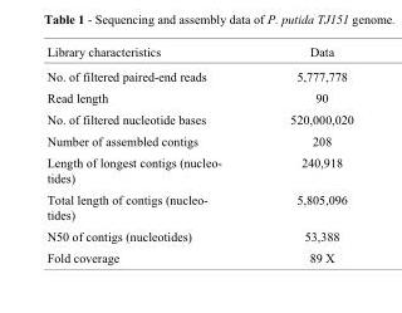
<table><thead><tr><td>Library characteristics</td><td>Data</td></tr></thead><tbody><tr><td>No. of filtered paired-end reads</td><td>5,777,778</td></tr><tr><td>Read length</td><td>90</td></tr><tr><td>No. of filtered nucleotide bases</td><td>520,000,020</td></tr><tr><td>Number of assembled contigs</td><td>208</td></tr><tr><td>Length of longest contigs (nucleo- tides)</td><td>240,918</td></tr><tr><td>Total length of contigs (nucleo- tides)</td><td>5,805,096</td></tr><tr><td>N50 of contigs (nucleotides)</td><td>53,388</td></tr><tr><td>Fold coverage</td><td>89 X</td></tr></tbody></table>